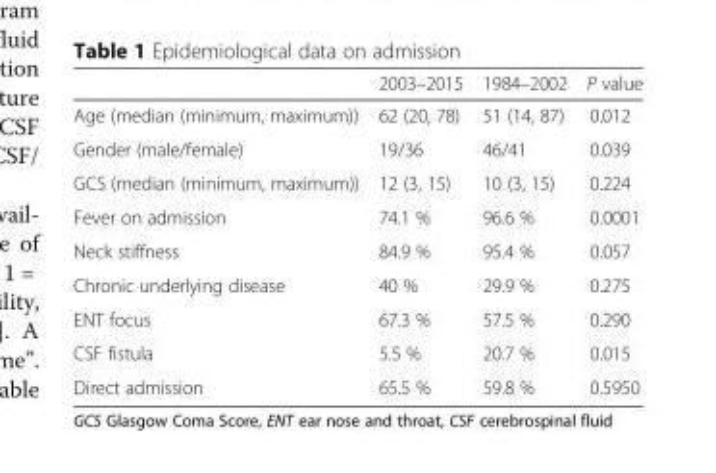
<table><thead><tr><td></td><td>2003–2015</td><td>1984–2002</td><td>P value</td></tr></thead><tbody><tr><td>Age (median (minimum, maximum))</td><td>62 (20, 78)</td><td>51 (14, 87)</td><td>0.012</td></tr><tr><td>Gender (male/female)</td><td>19/36</td><td>46/41</td><td>0.039</td></tr><tr><td>GCS (median (minimum, maximum))</td><td>12 (3, 15)</td><td>10 (3, 15)</td><td>0.224</td></tr><tr><td>Fever on admission</td><td>74.1 %</td><td>96.6 %</td><td>0.0001</td></tr><tr><td>Neck stiffness</td><td>84.9 %</td><td>95.4 %</td><td>0.057</td></tr><tr><td>Chronic underlying disease</td><td>40 %</td><td>29.9 %</td><td>0.275</td></tr><tr><td>ENT focus</td><td>67.3 %</td><td>57.5 %</td><td>0.290</td></tr><tr><td>CSF fistula</td><td>5.5 %</td><td>20.7 %</td><td>0.015</td></tr><tr><td>Direct admission</td><td>65.5 %</td><td>59.8 %</td><td>0.5950</td></tr></tbody></table>